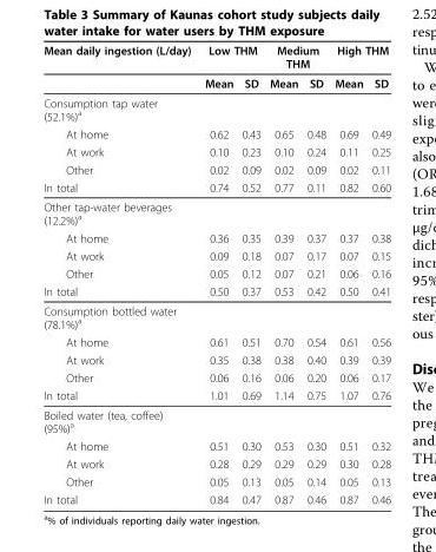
<table><thead><tr><td rowspan="2">Mean daily ingestion (L/day)</td><td colspan="2">Low THM</td><td colspan="2">Medium THM</td><td colspan="2">High THM</td></tr><tr><td>Mean</td><td>SD</td><td>Mean</td><td>SD</td><td>Mean</td><td>SD</td></tr></thead><tbody><tr><td colspan="7">Consumption tap water (52.1%)<sup>a</sup></td></tr><tr><td>At home</td><td>0.62</td><td>0.43</td><td>0.65</td><td>0.48</td><td>0.69</td><td>0.49</td></tr><tr><td>At work</td><td>0.10</td><td>0.23</td><td>0.10</td><td>0.24</td><td>0.11</td><td>0.25</td></tr><tr><td>Other</td><td>0.02</td><td>0.09</td><td>0.02</td><td>0.09</td><td>0.02</td><td>0.11</td></tr><tr><td>In total</td><td>0.74</td><td>0.52</td><td>0.77</td><td>0.11</td><td>0.82</td><td>0.60</td></tr><tr><td colspan="7">Other tap-water beverages (12.2%)<sup>a</sup></td></tr><tr><td>At home</td><td>0.36</td><td>0.35</td><td>0.39</td><td>0.37</td><td>0.37</td><td>0.38</td></tr><tr><td>At work</td><td>0.09</td><td>0.18</td><td>0.07</td><td>0.17</td><td>0.07</td><td>0.15</td></tr><tr><td>Other</td><td>0.05</td><td>0.12</td><td>0.07</td><td>0.21</td><td>0.06</td><td>0.16</td></tr><tr><td>In total</td><td>0.50</td><td>0.37</td><td>0.53</td><td>0.42</td><td>0.50</td><td>0.41</td></tr><tr><td colspan="7">Consumption bottled water (78.1%)<sup>a</sup></td></tr><tr><td>At home</td><td>0.61</td><td>0.51</td><td>0.70</td><td>0.54</td><td>0.61</td><td>0.56</td></tr><tr><td>At work</td><td>0.35</td><td>0.38</td><td>0.38</td><td>0.40</td><td>0.39</td><td>0.39</td></tr><tr><td>Other</td><td>0.06</td><td>0.16</td><td>0.06</td><td>0.20</td><td>0.06</td><td>0.17</td></tr><tr><td>In total</td><td>1.01</td><td>0.69</td><td>1.14</td><td>0.75</td><td>1.07</td><td>0.76</td></tr><tr><td colspan="7">Boiled water (tea, coffee) (95%)<sup>a</sup></td></tr><tr><td>At home</td><td>0.51</td><td>0.30</td><td>0.53</td><td>0.30</td><td>0.51</td><td>0.32</td></tr><tr><td>At work</td><td>0.28</td><td>0.29</td><td>0.29</td><td>0.29</td><td>0.30</td><td>0.28</td></tr><tr><td>Other</td><td>0.05</td><td>0.13</td><td>0.05</td><td>0.14</td><td>0.05</td><td>0.13</td></tr><tr><td>In total</td><td>0.84</td><td>0.47</td><td>0.87</td><td>0.46</td><td>0.87</td><td>0.46</td></tr></tbody></table>